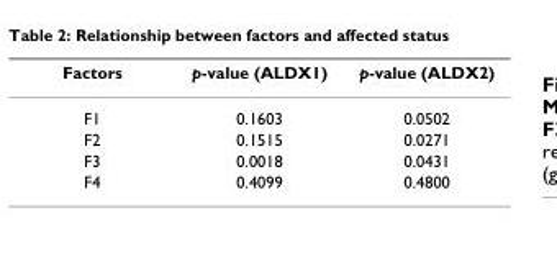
<table><thead><tr><td>Factors</td><td>p-value (ALDX1)</td><td>p-value (ALDX2)</td></tr></thead><tbody><tr><td>F1</td><td>0.1603</td><td>0.0502</td></tr><tr><td>F2</td><td>0.1515</td><td>0.0271</td></tr><tr><td>F3</td><td>0.0018</td><td>0.0431</td></tr><tr><td>F4</td><td>0.4099</td><td>0.4800</td></tr></tbody></table>